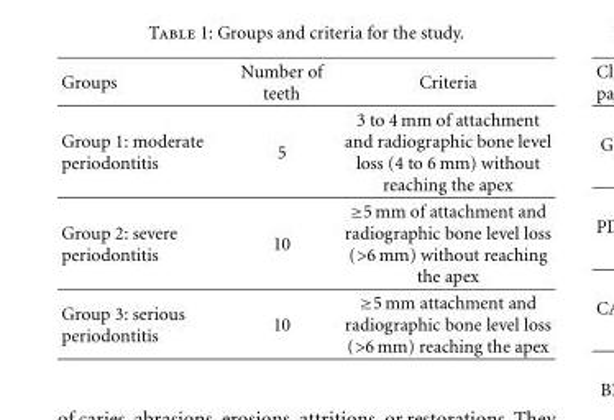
<table><thead><tr><td>Groups</td><td>Number of teeth</td><td>Criteria</td></tr></thead><tbody><tr><td>Group 1: moderate periodontitis</td><td>5</td><td>3 to 4 mm of attachment and radiographic bone level loss (4 to 6 mm) without reaching the apex</td></tr><tr><td>Group 2: severe periodontitis</td><td>10</td><td>≥5 mm of attachment and radiographic bone level loss (&gt;6 mm) without reaching the apex</td></tr><tr><td>Group 3: serious periodontitis</td><td>10</td><td>≥5 mm attachment and radiographic bone level loss (&gt;6 mm) reaching the apex</td></tr></tbody></table>